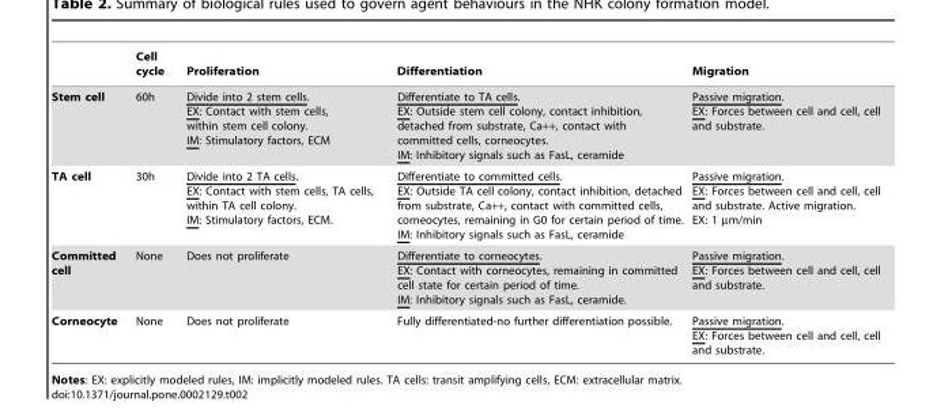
<table><thead><tr><td></td><td>Cell cycle</td><td>Proliferation</td><td>Differentiation</td><td>Migration</td></tr></thead><tbody><tr><td>Stem cell</td><td>60h</td><td>Divide into 2 stem cells. EX: Contact with stem cells, within stem cell colony. IM: Stimulatory factors, ECM</td><td>Differentiate to TA cells. EX: Outside stem cell colony, contact inhibition, detached from substrate, Ca++, contact with committed cells, corneocytes. IM: Inhibitory signals such as FasL, ceramide</td><td>Passive migration. EX: Forces between cell and cell, cell and substrate.</td></tr><tr><td>TA cell</td><td>30h</td><td>Divide into 2 TA cells. EX: Contact with stem cells, TA cells, within TA cell colony. IM: Stimulatory factors, ECM.</td><td>Differentiate to committed cells. EX: Outside TA cell colony, contact inhibition, detached from substrate, Ca++, contact with committed cells, corneocytes, remaining in G0 for certain period of time. IM: Inhibitory signals such as FasL, ceramide</td><td>Passive migration. EX: Forces between cell and cell, cell and substrate. Active migration. EX: 1 µm/min</td></tr><tr><td>Committed cell</td><td>None</td><td>Does not proliferate</td><td>Differentiate to corneocytes. EX: Contact with corneocytes, remaining in committed cell state for certain period of time. IM: Inhibitory signals such as FasL, ceramide.</td><td>Passive migration. EX: Forces between cell and cell, cell and substrate.</td></tr><tr><td>Corneocyte</td><td>None</td><td>Does not proliferate</td><td>Fully differentiated-no further differentiation possible.</td><td>Passive migration. EX: Forces between cell and cell, cell and substrate.</td></tr></tbody></table>